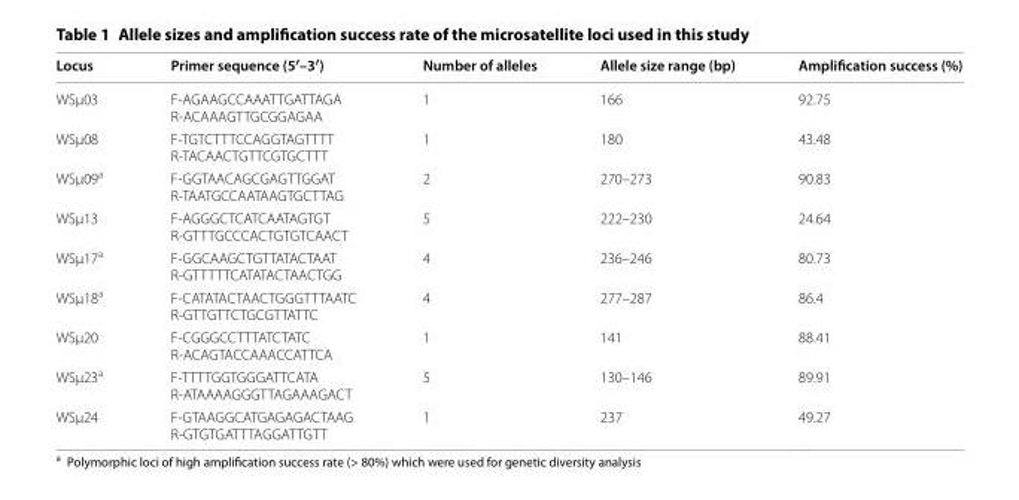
<table><thead><tr><td>Locus</td><td>Primer sequence (5′–3′)</td><td>Number of alleles</td><td>Allele size range (bp)</td><td>Amplification success (%)</td></tr></thead><tbody><tr><td>WSµ03</td><td>F-AGAAGCCAAATTGATTAGA R-ACAAAGTTGCGGAGAA</td><td>1</td><td>166</td><td>92.75</td></tr><tr><td>WSµ08</td><td>F-TGTCTTTCCAGGTAGTTTT R-TACAACTGTTCGTGCTTT</td><td>1</td><td>180</td><td>43.48</td></tr><tr><td>WSµ09<sup>a</sup></td><td>F-GGTAACAGCGAGTTGGAT R-TAATGCCAATAAGTGCTTAG</td><td>2</td><td>270–273</td><td>90.83</td></tr><tr><td>WSµ13</td><td>F-AGGGCTCATCAATAGTGT R-GTTTGCCCACTGTGTCAACT</td><td>5</td><td>222–230</td><td>24.64</td></tr><tr><td>WSµ17<sup>a</sup></td><td>F-GGCAAGCTGTTATACTAAT R-GTTTTTCATATACTAACTGG</td><td>4</td><td>236–246</td><td>80.73</td></tr><tr><td>WSµ18<sup>a</sup></td><td>F-CATATACTAACTGGGTTTAATC R-GTTGTTCTGCGTTATTC</td><td>4</td><td>277–287</td><td>86.4</td></tr><tr><td>WSµ20</td><td>F-CGGGCCTTTATCTATC R-ACAGTACCAAACCATTCA</td><td>1</td><td>141</td><td>88.41</td></tr><tr><td>WSµ23<sup>a</sup></td><td>F-TTTTGGTGGGATTCATA R-ATAAAAGGGTTAGAAAGACT</td><td>5</td><td>130–146</td><td>89.91</td></tr><tr><td>WSµ24</td><td>F-GTAAGGCATGAGAGACTAAG R-GTGTGATTTAGGATTGTT</td><td>1</td><td>237</td><td>49.27</td></tr></tbody></table>